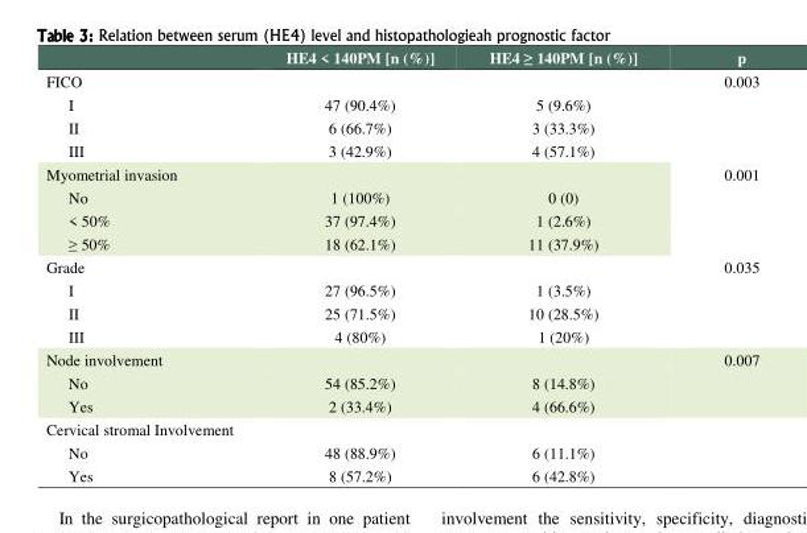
<table><thead><tr><td></td><td>HE4 &lt; 140PM [n (%)]</td><td>HE4 ≥ 140PM [n (%)]</td><td>p</td></tr></thead><tbody><tr><td colspan="3">FICO</td><td rowspan="4">0.003</td></tr><tr><td>I</td><td>47 (90.4%)</td><td>5 (9.6%)</td></tr><tr><td>II</td><td>6 (66.7%)</td><td>3 (33.3%)</td></tr><tr><td>III</td><td>3 (42.9%)</td><td>4 (57.1%)</td></tr><tr><td colspan="3">Myometrial invasion</td><td rowspan="4">0.001</td></tr><tr><td>No</td><td>1 (100%)</td><td>0 (0)</td></tr><tr><td>&lt; 50%</td><td>37 (97.4%)</td><td>1 (2.6%)</td></tr><tr><td>≥ 50%</td><td>18 (62.1%)</td><td>11 (37.9%)</td></tr><tr><td colspan="3">Grade</td><td rowspan="4">0.035</td></tr><tr><td>I</td><td>27 (96.5%)</td><td>1 (3.5%)</td></tr><tr><td>II</td><td>25 (71.5%)</td><td>10 (28.5%)</td></tr><tr><td>III</td><td>4 (80%)</td><td>1 (20%)</td></tr><tr><td colspan="3">Node involvement</td><td rowspan="3">0.007</td></tr><tr><td>No</td><td>54 (85.2%)</td><td>8 (14.8%)</td></tr><tr><td>Yes</td><td>2 (33.4%)</td><td>4 (66.6%)</td></tr><tr><td colspan="3">Cervical stromal Involvement</td><td rowspan="3"></td></tr><tr><td>No</td><td>48 (88.9%)</td><td>6 (11.1%)</td></tr><tr><td>Yes</td><td>8 (57.2%)</td><td>6 (42.8%)</td></tr></tbody></table>